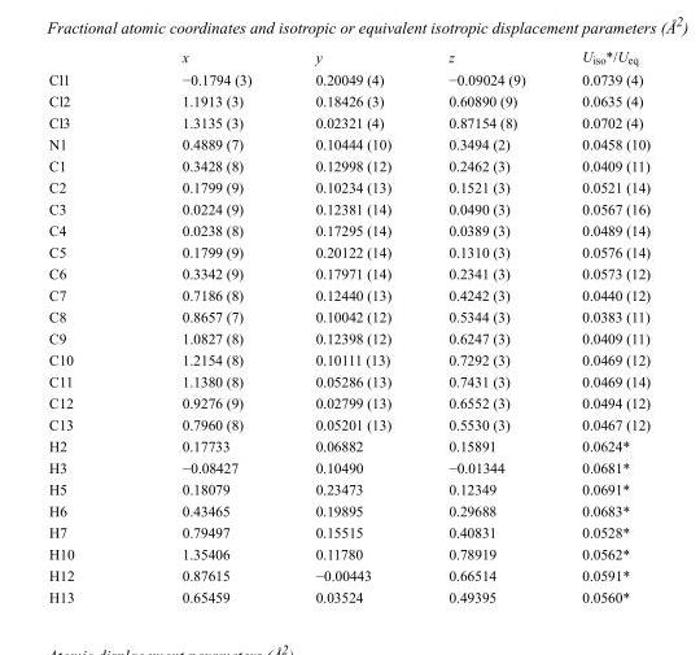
<table><thead><tr><td></td><td>x</td><td>y</td><td>z</td><td>U<sub>iso</sub>*/U<sub>eq</sub></td></tr></thead><tbody><tr><td>Cl1</td><td>−0.1794 (3)</td><td>0.20049 (4)</td><td>−0.09024 (9)</td><td>0.0739 (4)</td></tr><tr><td>Cl2</td><td>1.1913 (3)</td><td>0.18426 (3)</td><td>0.60890 (9)</td><td>0.0635 (4)</td></tr><tr><td>Cl3</td><td>1.3135 (3)</td><td>0.02321 (4)</td><td>0.87154 (8)</td><td>0.0702 (4)</td></tr><tr><td>N1</td><td>0.4889 (7)</td><td>0.10444 (10)</td><td>0.3494 (2)</td><td>0.0458 (10)</td></tr><tr><td>C1</td><td>0.3428 (8)</td><td>0.12998 (12)</td><td>0.2462 (3)</td><td>0.0409 (11)</td></tr><tr><td>C2</td><td>0.1799 (9)</td><td>0.10234 (13)</td><td>0.1521 (3)</td><td>0.0521 (14)</td></tr><tr><td>C3</td><td>0.0224 (9)</td><td>0.12381 (14)</td><td>0.0490 (3)</td><td>0.0567 (16)</td></tr><tr><td>C4</td><td>0.0238 (8)</td><td>0.17295 (14)</td><td>0.0389 (3)</td><td>0.0489 (14)</td></tr><tr><td>C5</td><td>0.1799 (9)</td><td>0.20122 (14)</td><td>0.1310 (3)</td><td>0.0576 (14)</td></tr><tr><td>C6</td><td>0.3342 (9)</td><td>0.17971 (14)</td><td>0.2341 (3)</td><td>0.0573 (12)</td></tr><tr><td>C7</td><td>0.7186 (8)</td><td>0.12440 (13)</td><td>0.4242 (3)</td><td>0.0440 (12)</td></tr><tr><td>C8</td><td>0.8657 (7)</td><td>0.10042 (12)</td><td>0.5344 (3)</td><td>0.0383 (11)</td></tr><tr><td>C9</td><td>1.0827 (8)</td><td>0.12398 (12)</td><td>0.6247 (3)</td><td>0.0409 (11)</td></tr><tr><td>C10</td><td>1.2154 (8)</td><td>0.10111 (13)</td><td>0.7292 (3)</td><td>0.0469 (12)</td></tr><tr><td>C11</td><td>1.1380 (8)</td><td>0.05286 (13)</td><td>0.7431 (3)</td><td>0.0469 (14)</td></tr><tr><td>C12</td><td>0.9276 (9)</td><td>0.02799 (13)</td><td>0.6552 (3)</td><td>0.0494 (12)</td></tr><tr><td>C13</td><td>0.7960 (8)</td><td>0.05201 (13)</td><td>0.5530 (3)</td><td>0.0467 (12)</td></tr><tr><td>H2</td><td>0.17733</td><td>0.06882</td><td>0.15891</td><td>0.0624*</td></tr><tr><td>H3</td><td>−0.08427</td><td>0.10490</td><td>−0.01344</td><td>0.0681*</td></tr><tr><td>H5</td><td>0.18079</td><td>0.23473</td><td>0.12349</td><td>0.0691*</td></tr><tr><td>H6</td><td>0.43465</td><td>0.19895</td><td>0.29688</td><td>0.0683*</td></tr><tr><td>H7</td><td>0.79497</td><td>0.15515</td><td>0.40831</td><td>0.0528*</td></tr><tr><td>H10</td><td>1.35406</td><td>0.11780</td><td>0.78919</td><td>0.0562*</td></tr><tr><td>H12</td><td>0.87615</td><td>−0.00443</td><td>0.66514</td><td>0.0591*</td></tr><tr><td>H13</td><td>0.65459</td><td>0.03524</td><td>0.49395</td><td>0.0560*</td></tr></tbody></table>